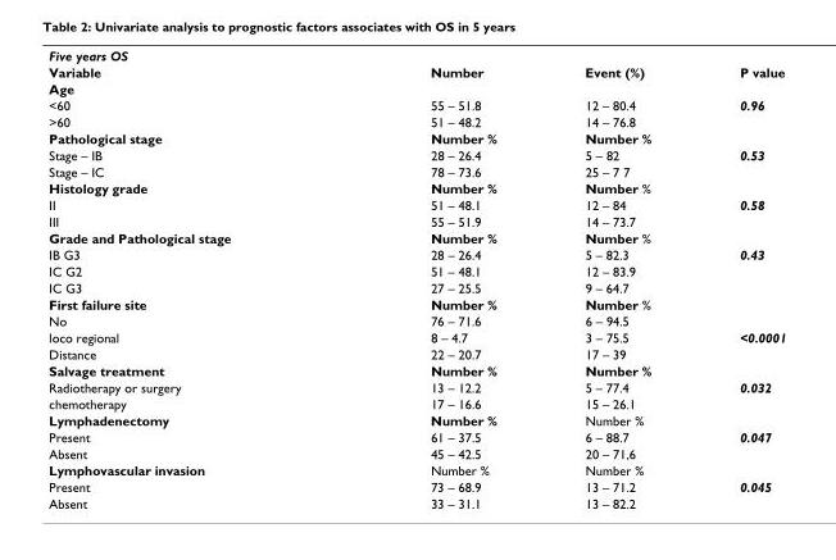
<table><tbody><tr><td colspan="4">Five years OS</td></tr><tr><td>Variable</td><td>Number</td><td>Event (%)</td><td>P value</td></tr><tr><td colspan="4">Age</td></tr><tr><td>&lt;60</td><td>55 – 51.8</td><td>12 – 80.4</td><td>0.96</td></tr><tr><td>&gt;60</td><td>51 – 48.2</td><td>14 – 76.8</td><td></td></tr><tr><td>Pathological stage</td><td>Number %</td><td>Number %</td><td></td></tr><tr><td>Stage – IB</td><td>28 – 26.4</td><td>5 – 82</td><td>0.53</td></tr><tr><td>Stage – IC</td><td>78 – 73.6</td><td>25 – 7 7</td><td></td></tr><tr><td>Histology grade</td><td>Number %</td><td>Number %</td><td></td></tr><tr><td>II</td><td>51 – 48.1</td><td>12 – 84</td><td>0.58</td></tr><tr><td>III</td><td>55 – 51.9</td><td>14 – 73.7</td><td></td></tr><tr><td>Grade and Pathological stage</td><td>Number %</td><td>Number %</td><td></td></tr><tr><td>IB G3</td><td>28 – 26.4</td><td>5 – 82.3</td><td>0.43</td></tr><tr><td>IC G2</td><td>51 – 48.1</td><td>12 – 83.9</td><td></td></tr><tr><td>IC G3</td><td>27 – 25.5</td><td>9 – 64.7</td><td></td></tr><tr><td>First failure site</td><td>Number %</td><td>Number %</td><td></td></tr><tr><td>No</td><td>76 – 71.6</td><td>6 – 94.5</td><td></td></tr><tr><td>loco regional</td><td>8 – 4.7</td><td>3 – 75.5</td><td>&lt;0.0001</td></tr><tr><td>Distance</td><td>22 – 20.7</td><td>17 – 39</td><td></td></tr><tr><td>Salvage treatment</td><td>Number %</td><td>Number %</td><td></td></tr><tr><td>Radiotherapy or surgery</td><td>13 – 12.2</td><td>5 – 77.4</td><td>0.032</td></tr><tr><td>chemotherapy</td><td>17 – 16.6</td><td>15 – 26.1</td><td></td></tr><tr><td>Lymphadenectomy</td><td>Number %</td><td>Number %</td><td></td></tr><tr><td>Present</td><td>61 – 37.5</td><td>6 – 88.7</td><td>0.047</td></tr><tr><td>Absent</td><td>45 – 42.5</td><td>20 – 71,6</td><td></td></tr><tr><td>Lymphovascular invasion</td><td>Number %</td><td>Number %</td><td></td></tr><tr><td>Present</td><td>73 – 68.9</td><td>13 – 71.2</td><td>0.045</td></tr><tr><td>Absent</td><td>33 – 31.1</td><td>13 – 82.2</td><td></td></tr></tbody></table>